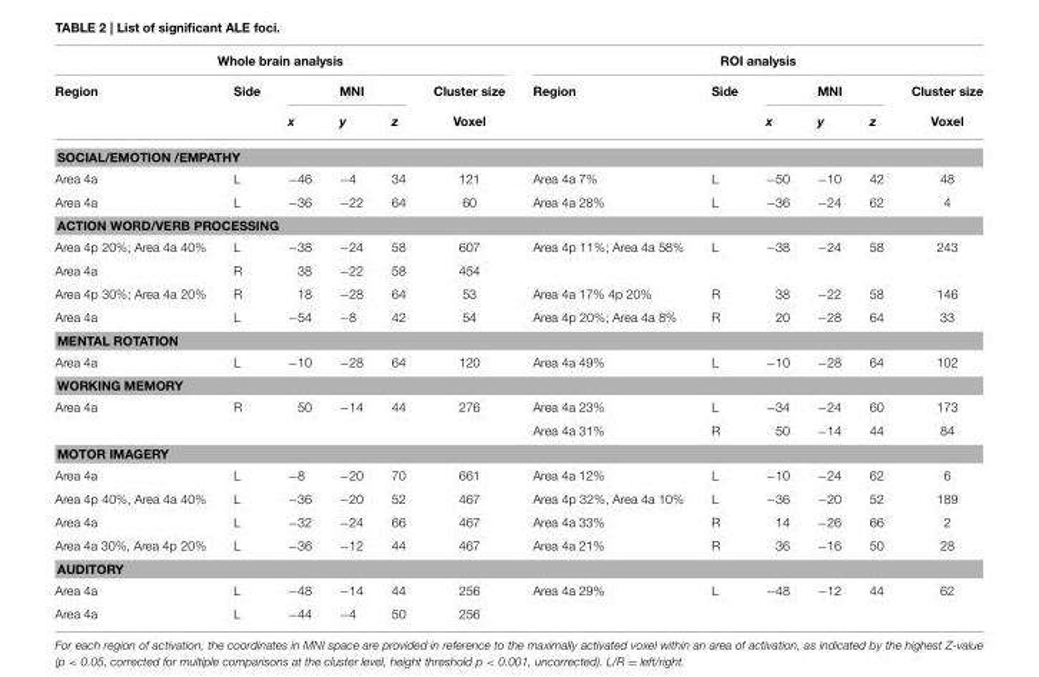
<table><thead><tr><td colspan="6">Whole brain analysis</td><td colspan="6">ROI analysis</td></tr><tr><td rowspan="2">Region</td><td rowspan="2">Side</td><td colspan="3">MNI</td><td rowspan="2">Cluster size Voxel</td><td rowspan="2">Region</td><td rowspan="2">Side</td><td colspan="3">MNI</td><td rowspan="2">Cluster size Voxel</td></tr><tr><td>x</td><td>y</td><td>z</td><td>x</td><td>y</td><td>z</td></tr></thead><tbody><tr><td colspan="12">SOCIAL/EMOTION /EMPATHY</td></tr><tr><td>Area 4a</td><td>L</td><td>−46</td><td>−4</td><td>34</td><td>121</td><td>Area 4a 7%</td><td>L</td><td>−50</td><td>−10</td><td>42</td><td>48</td></tr><tr><td>Area 4a</td><td>L</td><td>−36</td><td>−22</td><td>64</td><td>60</td><td>Area 4a 28%</td><td>L</td><td>−36</td><td>−24</td><td>62</td><td>4</td></tr><tr><td colspan="12">ACTION WORD/VERB PROCESSING</td></tr><tr><td>Area 4p 20%; Area 4a 40%</td><td>L</td><td>−38</td><td>−24</td><td>58</td><td>607</td><td>Area 4p 11%; Area 4a 58%</td><td>L</td><td>−38</td><td>−24</td><td>58</td><td>243</td></tr><tr><td>Area 4a</td><td>R</td><td>38</td><td>−22</td><td>58</td><td>454</td><td></td><td></td><td></td><td></td><td></td><td></td></tr><tr><td>Area 4p 30%; Area 4a 20%</td><td>R</td><td>18</td><td>−28</td><td>64</td><td>53</td><td>Area 4a 17% 4p 20%</td><td>R</td><td>38</td><td>−22</td><td>58</td><td>146</td></tr><tr><td>Area 4a</td><td>L</td><td>−54</td><td>−8</td><td>42</td><td>54</td><td>Area 4p 20%; Area 4a 8%</td><td>R</td><td>20</td><td>−28</td><td>64</td><td>33</td></tr><tr><td colspan="12">MENTAL ROTATION</td></tr><tr><td>Area 4a</td><td>L</td><td>−10</td><td>−28</td><td>64</td><td>120</td><td>Area 4a 49%</td><td>L</td><td>−10</td><td>−28</td><td>64</td><td>102</td></tr><tr><td colspan="12">WORKING MEMORY</td></tr><tr><td rowspan="2">Area 4a</td><td>R</td><td>50</td><td>−14</td><td>44</td><td>276</td><td>Area 4a 23%</td><td>L</td><td>−34</td><td>−24</td><td>60</td><td>173</td></tr><tr><td></td><td></td><td></td><td></td><td></td><td>Area 4a 31%</td><td>R</td><td>50</td><td>−14</td><td>44</td><td>84</td></tr><tr><td colspan="12">MOTOR IMAGERY</td></tr><tr><td>Area 4a</td><td>L</td><td>−8</td><td>−20</td><td>70</td><td>661</td><td>Area 4a 12%</td><td>L</td><td>−10</td><td>−24</td><td>62</td><td>6</td></tr><tr><td>Area 4p 40%, Area 4a 40%</td><td>L</td><td>−36</td><td>−20</td><td>52</td><td>467</td><td>Area 4p 32%, Area 4a 10%</td><td>L</td><td>−36</td><td>−20</td><td>52</td><td>189</td></tr><tr><td>Area 4a</td><td>L</td><td>−32</td><td>−24</td><td>66</td><td>467</td><td>Area 4a 33%</td><td>R</td><td>14</td><td>−26</td><td>66</td><td>2</td></tr><tr><td>Area 4a 30%, Area 4p 20%</td><td>L</td><td>−36</td><td>−12</td><td>44</td><td>467</td><td>Area 4a 21%</td><td>R</td><td>36</td><td>−16</td><td>50</td><td>28</td></tr><tr><td colspan="12">AUDITORY</td></tr><tr><td>Area 4a</td><td>L</td><td>−48</td><td>−14</td><td>44</td><td>256</td><td>Area 4a 29%</td><td>L</td><td>−48</td><td>−12</td><td>44</td><td>62</td></tr><tr><td>Area 4a</td><td>L</td><td>−44</td><td>−4</td><td>50</td><td>256</td><td></td><td></td><td></td><td></td><td></td><td></td></tr></tbody></table>